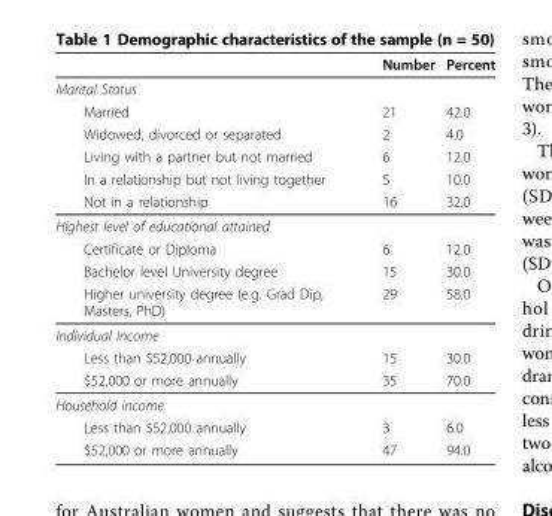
<table><thead><tr><td></td><td>Number</td><td>Percent</td></tr></thead><tbody><tr><td colspan="3">Marital Status</td></tr><tr><td>Married</td><td>21</td><td>42.0</td></tr><tr><td>Widowed, divorced or separated</td><td>2</td><td>4.0</td></tr><tr><td>Living with a partner but not married</td><td>6</td><td>12.0</td></tr><tr><td>In a relationship but not living together</td><td>5</td><td>10.0</td></tr><tr><td>Not in a relationship</td><td>16</td><td>32.0</td></tr><tr><td colspan="3">Highest level of educational attained</td></tr><tr><td>Certificate or Diploma</td><td>6</td><td>12.0</td></tr><tr><td>Bachelor level University degree</td><td>15</td><td>30.0</td></tr><tr><td>Higher university degree (e.g. Grad Dip, Masters, PhD)</td><td>29</td><td>58.0</td></tr><tr><td colspan="3">Individual Income</td></tr><tr><td>Less than $52,000 annually</td><td>15</td><td>30.0</td></tr><tr><td>$52,000 or more annually</td><td>35</td><td>70.0</td></tr><tr><td colspan="3">Household income</td></tr><tr><td>Less than $52,000 annually</td><td>3</td><td>6.0</td></tr><tr><td>$52,000 or more annually</td><td>47</td><td>94.0</td></tr></tbody></table>